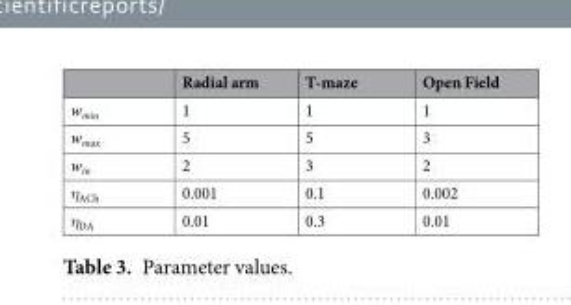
<table><thead><tr><td></td><td>Radial arm</td><td>T-maze</td><td>Open Field</td></tr></thead><tbody><tr><td>w<sub>min</sub></td><td>1</td><td>1</td><td>1</td></tr><tr><td>w<sub>max</sub></td><td>5</td><td>5</td><td>3</td></tr><tr><td>w<sub>in</sub></td><td>2</td><td>3</td><td>2</td></tr><tr><td>η<sub>ACh</sub></td><td>0.001</td><td>0.1</td><td>0.002</td></tr><tr><td>η<sub>DA</sub></td><td>0.01</td><td>0.3</td><td>0.01</td></tr></tbody></table>